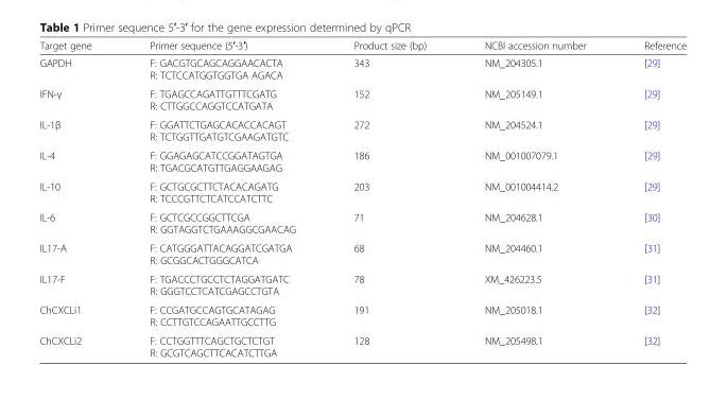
<table><thead><tr><td>Target gene</td><td>Primer sequence (5′-3′)</td><td>Product size (bp)</td><td>NCBI accession number</td><td>Reference</td></tr></thead><tbody><tr><td>GAPDH</td><td>F: GACGTGCAGCAGGAACACTA R: TCTCCATGGTGGTGA AGACA</td><td>343</td><td>NM_204305.1</td><td>[29]</td></tr><tr><td>IFN-γ</td><td>F: TGAGCCAGATTGTTTCGATG R: CTTGGCCAGGTCCATGATA</td><td>152</td><td>NM_205149.1</td><td>[29]</td></tr><tr><td>IL-1β</td><td>F: GGATTCTGAGCACACCACAGT R: TCTGGTTGATGTCGAAGATGTC</td><td>272</td><td>NM_204524.1</td><td>[29]</td></tr><tr><td>IL-4</td><td>F: GGAGAGCATCCGGATAGTGA R: TGACGCATGTTGAGGAAGAG</td><td>186</td><td>NM_001007079.1</td><td>[29]</td></tr><tr><td>IL-10</td><td>F: GCTGCGCTTCTACACAGATG R: TCCCGTTCTCATCCATCTTC</td><td>203</td><td>NM_001004414.2</td><td>[29]</td></tr><tr><td>IL-6</td><td>F: GCTCGCCGGCTTCGA R: GGTAGGTCTGAAAGGCGAACAG</td><td>71</td><td>NM_204628.1</td><td>[30]</td></tr><tr><td>IL17-A</td><td>F: CATGGGATTACAGGATCGATGA R: GCGGCACTGGGCATCA</td><td>68</td><td>NM_204460.1</td><td>[31]</td></tr><tr><td>IL17-F</td><td>F: TGACCCTGCCTCTAGGATGATC R: GGGTCCTCATCGAGCCTGTA</td><td>78</td><td>XM_426223.5</td><td>[31]</td></tr><tr><td>ChCXCLi1</td><td>F: CCGATGCCAGTGCATAGAG R: CCTTGTCCAGAATTGCCTTG</td><td>191</td><td>NM_205018.1</td><td>[32]</td></tr><tr><td>ChCXCLi2</td><td>F: CCTGGTTTCAGCTGCTCTGT R: GCGTCAGCTTCACATCTTGA</td><td>128</td><td>NM_205498.1</td><td>[32]</td></tr></tbody></table>